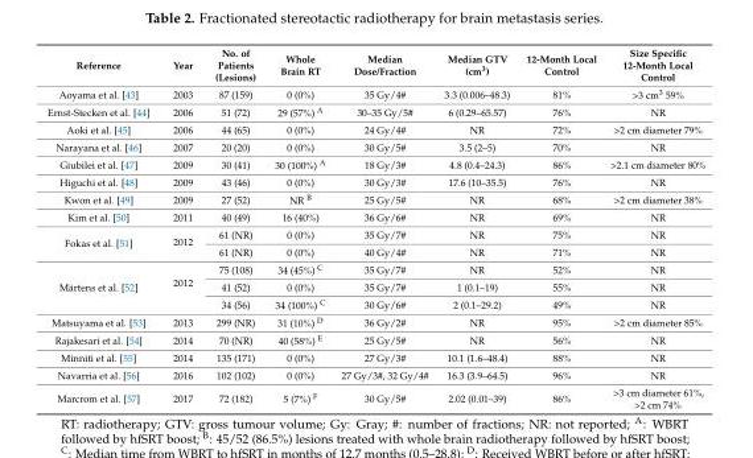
<table><thead><tr><td>Reference</td><td>Year</td><td>No. of Patients (Lesions)</td><td>Whole Brain RT</td><td>Median Dose/Fraction</td><td>Median GTV (cm<sup>3</sup>)</td><td>12-Month Local Control</td><td>Size Specific 12-Month Local Control</td></tr></thead><tbody><tr><td>Aoyama et al. [43]</td><td>2003</td><td>87 (159)</td><td>0 (0%)</td><td>35 Gy/4#</td><td>3.3 (0.006–48.3)</td><td>81%</td><td>&gt;3 cm<sup>3</sup> 59%</td></tr><tr><td>Ernst-Stecken et al. [44]</td><td>2006</td><td>51 (72)</td><td>29 (57%) <sup>A</sup></td><td>30–35 Gy/5#</td><td>6 (0.29–65.57)</td><td>76%</td><td>NR</td></tr><tr><td>Aoki et al. [45]</td><td>2006</td><td>44 (65)</td><td>0 (0%)</td><td>24 Gy/4#</td><td>NR</td><td>72%</td><td>&gt;2 cm diameter 79%</td></tr><tr><td>Narayana et al. [46]</td><td>2007</td><td>20 (20)</td><td>0 (0%)</td><td>30 Gy/5#</td><td>3.5 (2–5)</td><td>70%</td><td>NR</td></tr><tr><td>Giubilei et al. [47]</td><td>2009</td><td>30 (41)</td><td>30 (100%) <sup>A</sup></td><td>18 Gy/3#</td><td>4.8 (0.4–24.3)</td><td>86%</td><td>&gt;2.1 cm diameter 80%</td></tr><tr><td>Higuchi et al. [48]</td><td>2009</td><td>43 (46)</td><td>0 (0%)</td><td>30 Gy/3#</td><td>17.6 (10–35.5)</td><td>76%</td><td>NR</td></tr><tr><td>Kwon et al. [49]</td><td>2009</td><td>27 (52)</td><td>NR <sup>B</sup></td><td>25 Gy/5#</td><td>NR</td><td>68%</td><td>&gt;2 cm diameter 38%</td></tr><tr><td>Kim et al. [50]</td><td>2011</td><td>40 (49)</td><td>16 (40%)</td><td>36 Gy/6#</td><td>NR</td><td>69%</td><td>NR</td></tr><tr><td rowspan="2">Fokas et al. [51]</td><td rowspan="2">2012</td><td>61 (NR)</td><td>0 (0%)</td><td>35 Gy/7#</td><td>NR</td><td>75%</td><td>NR</td></tr><tr><td>61 (NR)</td><td>0 (0%)</td><td>40 Gy/4#</td><td>NR</td><td>71%</td><td>NR</td></tr><tr><td rowspan="3">Märtens et al. [52]</td><td rowspan="3">2012</td><td>75 (108)</td><td>34 (45%) <sup>C</sup></td><td>35 Gy/7#</td><td>NR</td><td>52%</td><td>NR</td></tr><tr><td>41 (52)</td><td>0 (0%)</td><td>35 Gy/7#</td><td>1 (0.1–19)</td><td>55%</td><td>NR</td></tr><tr><td>34 (56)</td><td>34 (100%) <sup>C</sup></td><td>30 Gy/6#</td><td>2 (0.1–29.2)</td><td>49%</td><td>NR</td></tr><tr><td>Matsuyama et al. [53]</td><td>2013</td><td>299 (NR)</td><td>31 (10%) <sup>D</sup></td><td>36 Gy/2#</td><td>NR</td><td>95%</td><td>&gt;2 cm diameter 85%</td></tr><tr><td>Rajakesari et al. [54]</td><td>2014</td><td>70 (NR)</td><td>40 (58%) <sup>E</sup></td><td>25 Gy/5#</td><td>NR</td><td>56%</td><td>NR</td></tr><tr><td>Minniti et al. [55]</td><td>2014</td><td>135 (171)</td><td>0 (0%)</td><td>27 Gy/3#</td><td>10.1 (1.6–48.4)</td><td>88%</td><td>NR</td></tr><tr><td>Navarria et al. [56]</td><td>2016</td><td>102 (102)</td><td>0 (0%)</td><td>27 Gy/3#, 32 Gy/4#</td><td>16.3 (3.9–64.5)</td><td>96%</td><td>NR</td></tr><tr><td>Marcrom et al. [57]</td><td>2017</td><td>72 (182)</td><td>5 (7%) <sup>F</sup></td><td>30 Gy/5#</td><td>2.02 (0.01–39)</td><td>86%</td><td>&gt;3 cm diameter 61%, &gt;2 cm 74%</td></tr></tbody></table>